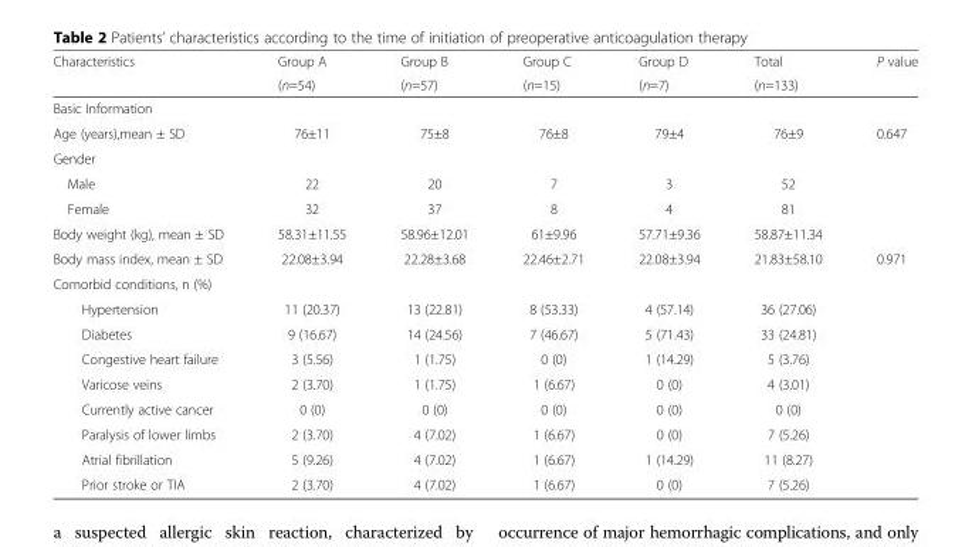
<table><thead><tr><td rowspan="2">Characteristics</td><td rowspan="2">Group A (n=54)</td><td rowspan="2">Group B (n=57)</td><td rowspan="2">Group C (n=15)</td><td rowspan="2">Group D (n=7)</td><td rowspan="2">Total (n=133)</td><td rowspan="2">P value</td></tr><tr></tr></thead><tbody><tr><td colspan="7">Basic Information</td></tr><tr><td>Age (years),mean ± SD</td><td>76±11</td><td>75±8</td><td>76±8</td><td>79±4</td><td>76±9</td><td>0.647</td></tr><tr><td colspan="7">Gender</td></tr><tr><td>Male</td><td>22</td><td>20</td><td>7</td><td>3</td><td>52</td><td></td></tr><tr><td>Female</td><td>32</td><td>37</td><td>8</td><td>4</td><td>81</td><td></td></tr><tr><td>Body weight (kg), mean ± SD</td><td>58.31±11.55</td><td>58.96±12.01</td><td>61±9.96</td><td>57.71±9.36</td><td>58.87±11.34</td><td></td></tr><tr><td>Body mass index, mean ± SD</td><td>22.08±3.94</td><td>22.28±3.68</td><td>22.46±2.71</td><td>22.08±3.94</td><td>21.83±58.10</td><td>0.971</td></tr><tr><td colspan="7">Comorbid conditions, n (%)</td></tr><tr><td>Hypertension</td><td>11 (20.37)</td><td>13 (22.81)</td><td>8 (53.33)</td><td>4 (57.14)</td><td>36 (27.06)</td><td></td></tr><tr><td>Diabetes</td><td>9 (16.67)</td><td>14 (24.56)</td><td>7 (46.67)</td><td>5 (71.43)</td><td>33 (24.81)</td><td></td></tr><tr><td>Congestive heart failure</td><td>3 (5.56)</td><td>1 (1.75)</td><td>0 (0)</td><td>1 (14.29)</td><td>5 (3.76)</td><td></td></tr><tr><td>Varicose veins</td><td>2 (3.70)</td><td>1 (1.75)</td><td>1 (6.67)</td><td>0 (0)</td><td>4 (3.01)</td><td></td></tr><tr><td>Currently active cancer</td><td>0 (0)</td><td>0 (0)</td><td>0 (0)</td><td>0 (0)</td><td>0 (0)</td><td></td></tr><tr><td>Paralysis of lower limbs</td><td>2 (3.70)</td><td>4 (7.02)</td><td>1 (6.67)</td><td>0 (0)</td><td>7 (5.26)</td><td></td></tr><tr><td>Atrial fibrillation</td><td>5 (9.26)</td><td>4 (7.02)</td><td>1 (6.67)</td><td>1 (14.29)</td><td>11 (8.27)</td><td></td></tr><tr><td>Prior stroke or TIA</td><td>2 (3.70)</td><td>4 (7.02)</td><td>1 (6.67)</td><td>0 (0)</td><td>7 (5.26)</td><td></td></tr></tbody></table>